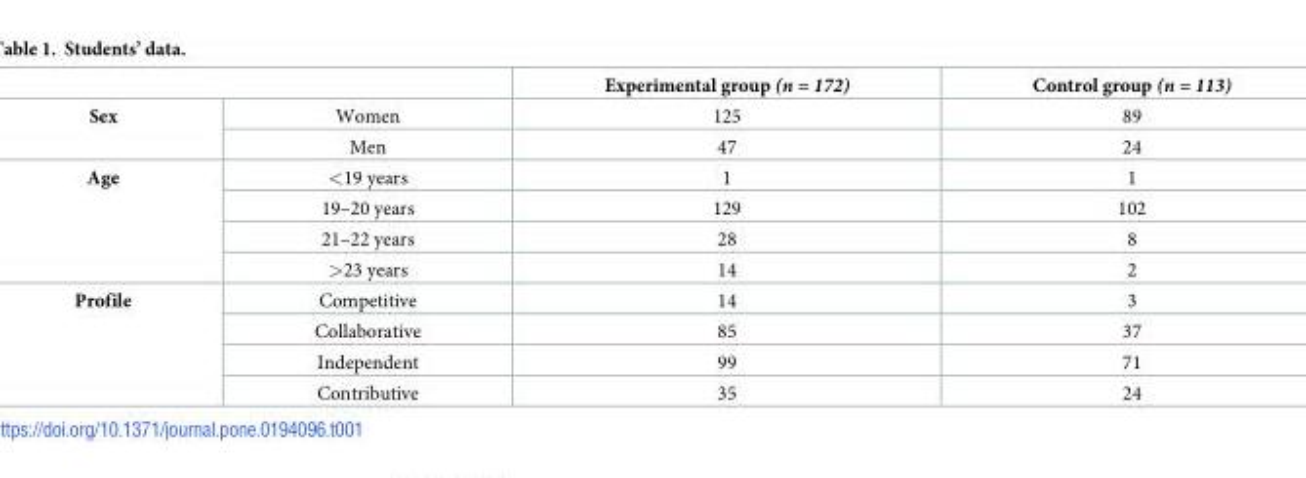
<table><thead><tr><td></td><td></td><td>Experimental group (n = 172)</td><td>Control group (n = 113)</td></tr></thead><tbody><tr><td rowspan="2">Sex</td><td>Women</td><td>125</td><td>89</td></tr><tr><td>Men</td><td>47</td><td>24</td></tr><tr><td rowspan="4">Age</td><td>&lt;19 years</td><td>1</td><td>1</td></tr><tr><td>19–20 years</td><td>129</td><td>102</td></tr><tr><td>21–22 years</td><td>28</td><td>8</td></tr><tr><td>&gt;23 years</td><td>14</td><td>2</td></tr><tr><td rowspan="4">Profile</td><td>Competitive</td><td>14</td><td>3</td></tr><tr><td>Collaborative</td><td>85</td><td>37</td></tr><tr><td>Independent</td><td>99</td><td>71</td></tr><tr><td>Contributive</td><td>35</td><td>24</td></tr></tbody></table>